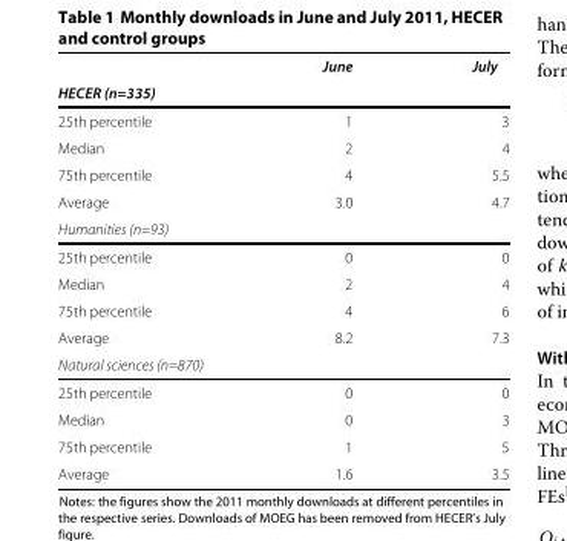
<table><thead><tr><td></td><td>June</td><td>July</td></tr><tr><td colspan="3">HECER (n=335)</td></tr></thead><tbody><tr><td>25th percentile</td><td>1</td><td>3</td></tr><tr><td>Median</td><td>2</td><td>4</td></tr><tr><td>75th percentile</td><td>4</td><td>5.5</td></tr><tr><td>Average</td><td>3.0</td><td>4.7</td></tr><tr><td colspan="3">Humanities (n=93)</td></tr><tr><td>25th percentile</td><td>0</td><td>0</td></tr><tr><td>Median</td><td>2</td><td>4</td></tr><tr><td>75th percentile</td><td>4</td><td>6</td></tr><tr><td>Average</td><td>8.2</td><td>7.3</td></tr><tr><td colspan="3">Natural sciences (n=870)</td></tr><tr><td>25th percentile</td><td>0</td><td>0</td></tr><tr><td>Median</td><td>0</td><td>3</td></tr><tr><td>75th percentile</td><td>1</td><td>5</td></tr><tr><td>Average</td><td>1.6</td><td>3.5</td></tr></tbody></table>